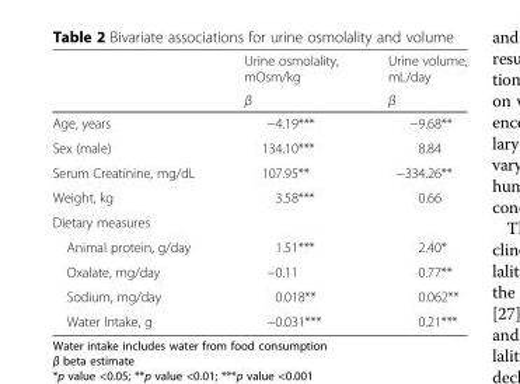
<table><thead><tr><td rowspan="2"></td><td rowspan="2">Urine osmolality, mOsm/kg β</td><td rowspan="2">Urine volume, mL/day β</td></tr><tr></tr></thead><tbody><tr><td>Age, years</td><td>−4.19***</td><td>−9.68**</td></tr><tr><td>Sex (male)</td><td>134.10***</td><td>8.84</td></tr><tr><td>Serum Creatinine, mg/dL</td><td>107.95**</td><td>−334.26**</td></tr><tr><td>Weight, kg</td><td>3.58***</td><td>0.66</td></tr><tr><td colspan="3">Dietary measures</td></tr><tr><td>Animal protein, g/day</td><td>1.51***</td><td>2.40*</td></tr><tr><td>Oxalate, mg/day</td><td>−0.11</td><td>0.77**</td></tr><tr><td>Sodium, mg/day</td><td>0.018**</td><td>0.062**</td></tr><tr><td>Water Intake, g</td><td>−0.031***</td><td>0.21***</td></tr></tbody></table>